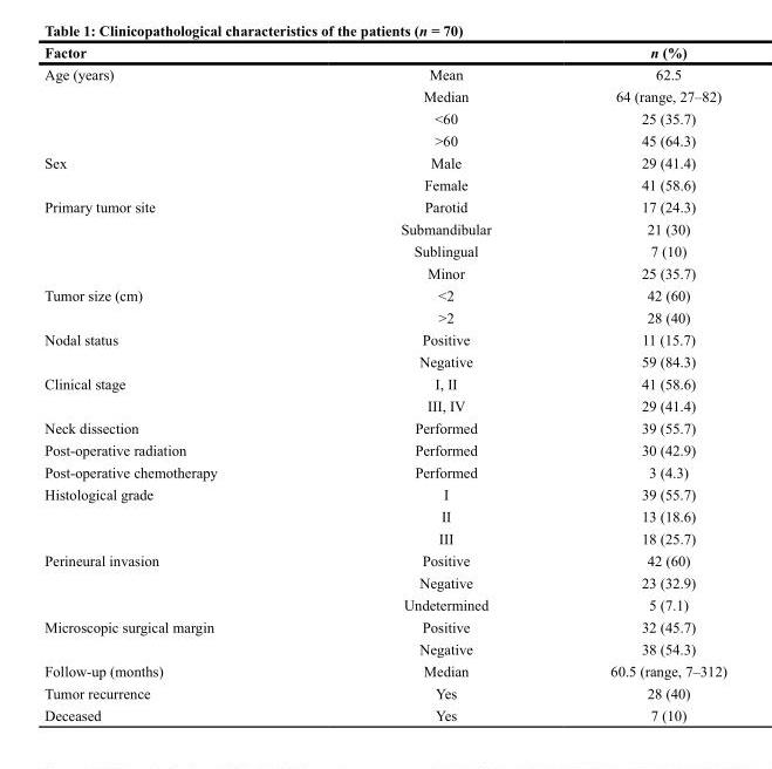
<table><thead><tr><td>Factor</td><td></td><td>n (%)</td></tr></thead><tbody><tr><td rowspan="4">Age (years)</td><td>Mean</td><td>62.5</td></tr><tr><td>Median</td><td>64 (range, 27–82)</td></tr><tr><td>&lt;60</td><td>25 (35.7)</td></tr><tr><td>&gt;60</td><td>45 (64.3)</td></tr><tr><td rowspan="2">Sex</td><td>Male</td><td>29 (41.4)</td></tr><tr><td>Female</td><td>41 (58.6)</td></tr><tr><td rowspan="4">Primary tumor site</td><td>Parotid</td><td>17 (24.3)</td></tr><tr><td>Submandibular</td><td>21 (30)</td></tr><tr><td>Sublingual</td><td>7 (10)</td></tr><tr><td>Minor</td><td>25 (35.7)</td></tr><tr><td rowspan="2">Tumor size (cm)</td><td>&lt;2</td><td>42 (60)</td></tr><tr><td>&gt;2</td><td>28 (40)</td></tr><tr><td rowspan="2">Nodal status</td><td>Positive</td><td>11 (15.7)</td></tr><tr><td>Negative</td><td>59 (84.3)</td></tr><tr><td rowspan="2">Clinical stage</td><td>I, II</td><td>41 (58.6)</td></tr><tr><td>III, IV</td><td>29 (41.4)</td></tr><tr><td>Neck dissection</td><td>Performed</td><td>39 (55.7)</td></tr><tr><td>Post-operative radiation</td><td>Performed</td><td>30 (42.9)</td></tr><tr><td>Post-operative chemotherapy</td><td>Performed</td><td>3 (4.3)</td></tr><tr><td rowspan="3">Histological grade</td><td>I</td><td>39 (55.7)</td></tr><tr><td>II</td><td>13 (18.6)</td></tr><tr><td>III</td><td>18 (25.7)</td></tr><tr><td rowspan="3">Perineural invasion</td><td>Positive</td><td>42 (60)</td></tr><tr><td>Negative</td><td>23 (32.9)</td></tr><tr><td>Undetermined</td><td>5 (7.1)</td></tr><tr><td rowspan="2">Microscopic surgical margin</td><td>Positive</td><td>32 (45.7)</td></tr><tr><td>Negative</td><td>38 (54.3)</td></tr><tr><td>Follow-up (months)</td><td>Median</td><td>60.5 (range, 7–312)</td></tr><tr><td>Tumor recurrence</td><td>Yes</td><td>28 (40)</td></tr><tr><td>Deceased</td><td>Yes</td><td>7 (10)</td></tr></tbody></table>